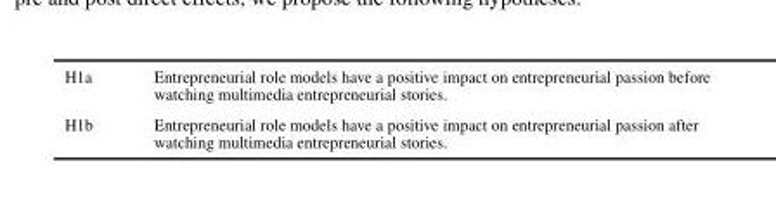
<table><tbody><tr><td>H1a</td><td>Entrepreneurial role models have a positive impact on entrepreneurial passion before watching multimedia entrepreneurial stories.</td></tr><tr><td>H1b</td><td>Entrepreneurial role models have a positive impact on entrepreneurial passion after watching multimedia entrepreneurial stories.</td></tr></tbody></table>